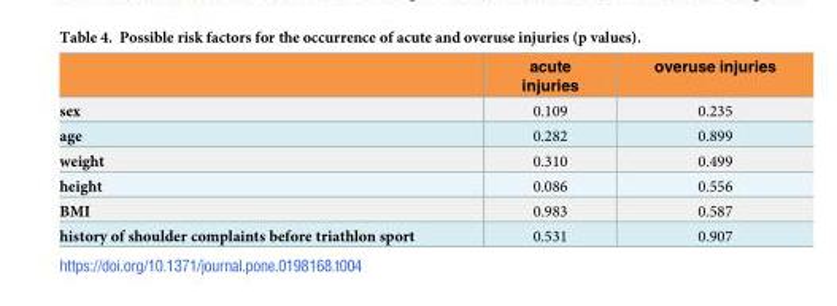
<table><thead><tr><td></td><td>acute injuries</td><td>overuse injuries</td></tr></thead><tbody><tr><td>sex</td><td>0.109</td><td>0.235</td></tr><tr><td>age</td><td>0.282</td><td>0.899</td></tr><tr><td>weight</td><td>0.310</td><td>0.499</td></tr><tr><td>height</td><td>0.086</td><td>0.556</td></tr><tr><td>BMI</td><td>0.983</td><td>0.587</td></tr><tr><td>history of shoulder complaints before triathlon sport</td><td>0.531</td><td>0.907</td></tr></tbody></table>